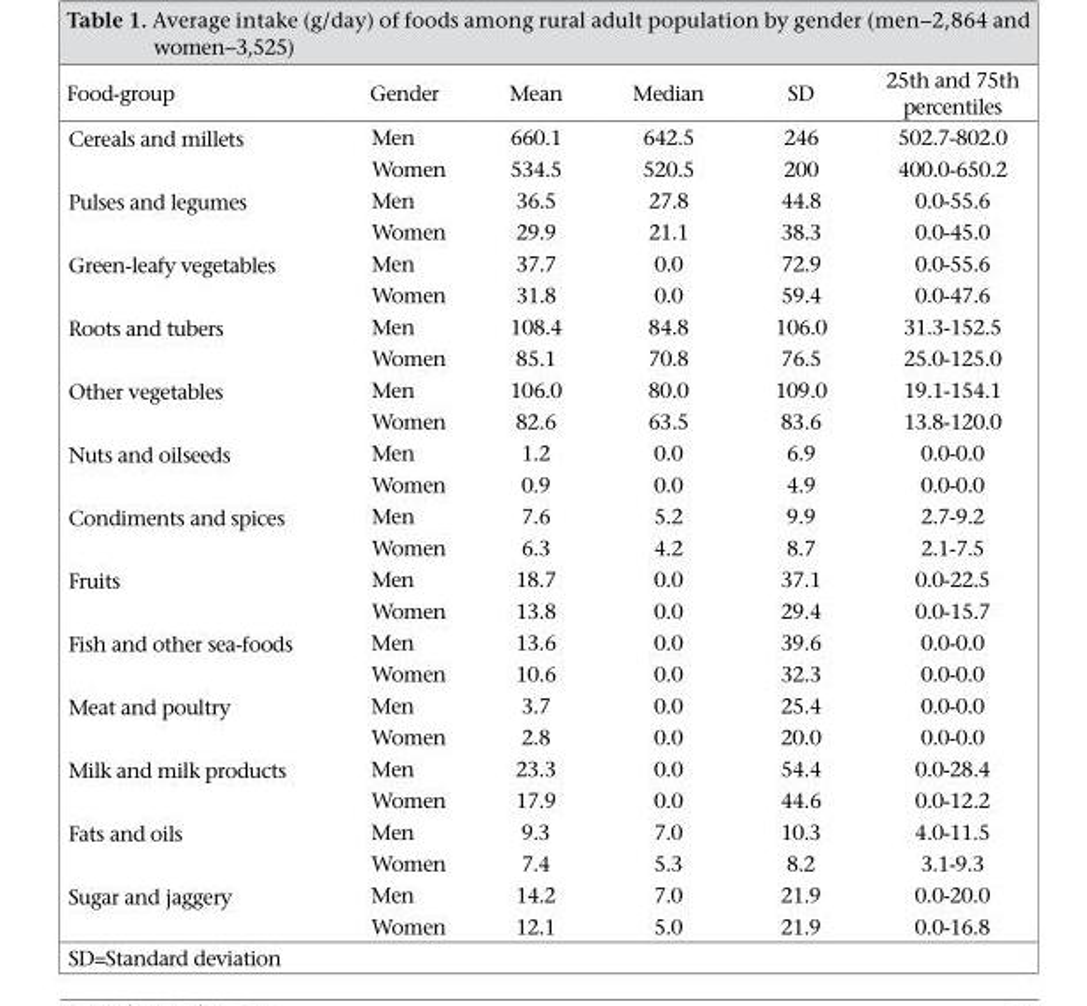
<table><thead><tr><td>Food-group</td><td>Gender</td><td>Mean</td><td>Median</td><td>SD</td><td>25th and 75th percentiles</td></tr></thead><tbody><tr><td rowspan="2">Cereals and millets</td><td>Men</td><td>660.1</td><td>642.5</td><td>246</td><td>502.7-802.0</td></tr><tr><td>Women</td><td>534.5</td><td>520.5</td><td>200</td><td>400.0-650.2</td></tr><tr><td rowspan="2">Pulses and legumes</td><td>Men</td><td>36.5</td><td>27.8</td><td>44.8</td><td>0.0-55.6</td></tr><tr><td>Women</td><td>29.9</td><td>21.1</td><td>38.3</td><td>0.0-45.0</td></tr><tr><td rowspan="2">Green-leafy vegetables</td><td>Men</td><td>37.7</td><td>0.0</td><td>72.9</td><td>0.0-55.6</td></tr><tr><td>Women</td><td>31.8</td><td>0.0</td><td>59.4</td><td>0.0-47.6</td></tr><tr><td rowspan="2">Roots and tubers</td><td>Men</td><td>108.4</td><td>84.8</td><td>106.0</td><td>31.3-152.5</td></tr><tr><td>Women</td><td>85.1</td><td>70.8</td><td>76.5</td><td>25.0-125.0</td></tr><tr><td rowspan="2">Other vegetables</td><td>Men</td><td>106.0</td><td>80.0</td><td>109.0</td><td>19.1-154.1</td></tr><tr><td>Women</td><td>82.6</td><td>63.5</td><td>83.6</td><td>13.8-120.0</td></tr><tr><td rowspan="2">Nuts and oilseeds</td><td>Men</td><td>1.2</td><td>0.0</td><td>6.9</td><td>0.0-0.0</td></tr><tr><td>Women</td><td>0.9</td><td>0.0</td><td>4.9</td><td>0.0-0.0</td></tr><tr><td rowspan="2">Condiments and spices</td><td>Men</td><td>7.6</td><td>5.2</td><td>9.9</td><td>2.7-9.2</td></tr><tr><td>Women</td><td>6.3</td><td>4.2</td><td>8.7</td><td>2.1-7.5</td></tr><tr><td rowspan="2">Fruits</td><td>Men</td><td>18.7</td><td>0.0</td><td>37.1</td><td>0.0-22.5</td></tr><tr><td>Women</td><td>13.8</td><td>0.0</td><td>29.4</td><td>0.0-15.7</td></tr><tr><td rowspan="2">Fish and other sea-foods</td><td>Men</td><td>13.6</td><td>0.0</td><td>39.6</td><td>0.0-0.0</td></tr><tr><td>Women</td><td>10.6</td><td>0.0</td><td>32.3</td><td>0.0-0.0</td></tr><tr><td rowspan="2">Meat and poultry</td><td>Men</td><td>3.7</td><td>0.0</td><td>25.4</td><td>0.0-0.0</td></tr><tr><td>Women</td><td>2.8</td><td>0.0</td><td>20.0</td><td>0.0-0.0</td></tr><tr><td rowspan="2">Milk and milk products</td><td>Men</td><td>23.3</td><td>0.0</td><td>54.4</td><td>0.0-28.4</td></tr><tr><td>Women</td><td>17.9</td><td>0.0</td><td>44.6</td><td>0.0-12.2</td></tr><tr><td rowspan="2">Fats and oils</td><td>Men</td><td>9.3</td><td>7.0</td><td>10.3</td><td>4.0-11.5</td></tr><tr><td>Women</td><td>7.4</td><td>5.3</td><td>8.2</td><td>3.1-9.3</td></tr><tr><td rowspan="2">Sugar and jaggery</td><td>Men</td><td>14.2</td><td>7.0</td><td>21.9</td><td>0.0-20.0</td></tr><tr><td>Women</td><td>12.1</td><td>5.0</td><td>21.9</td><td>0.0-16.8</td></tr></tbody></table>